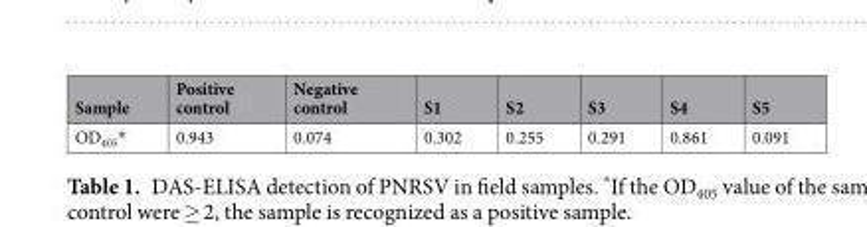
<table><thead><tr><td>Sample</td><td>Positive control</td><td>Negative control</td><td>S1</td><td>S2</td><td>S3</td><td>S4</td><td>S5</td></tr></thead><tbody><tr><td>OD<sub>405</sub>*</td><td>0.943</td><td>0.074</td><td>0.302</td><td>0.255</td><td>0.291</td><td>0.861</td><td>0.091</td></tr></tbody></table>